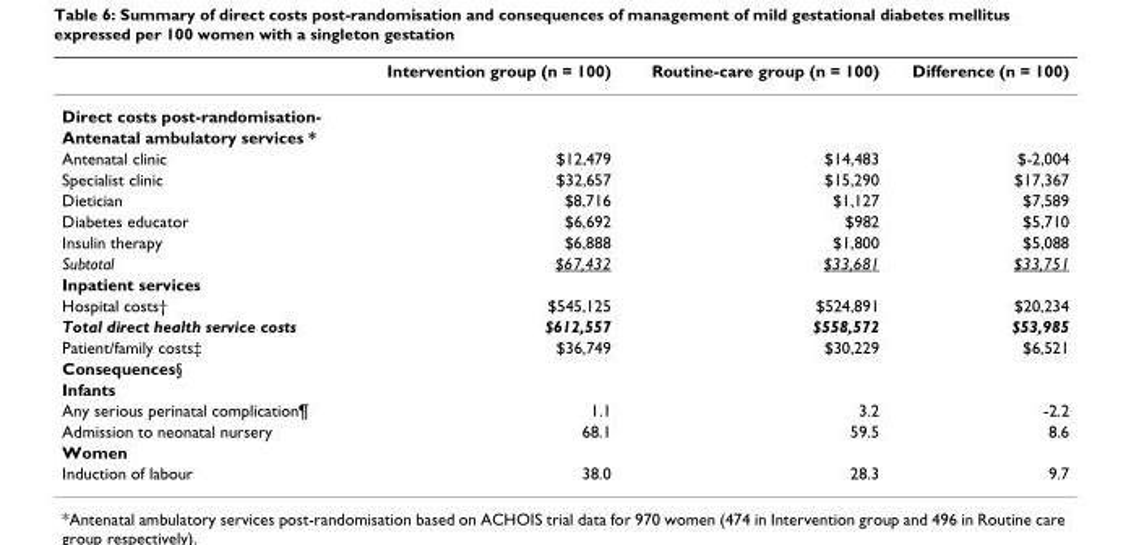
<table><thead><tr><td></td><td>Intervention group (n = 100)</td><td>Routine-care group (n = 100)</td><td>Difference (n = 100)</td></tr></thead><tbody><tr><td colspan="4">Direct costs post-randomisation-</td></tr><tr><td colspan="4">Antenatal ambulatory services *</td></tr><tr><td>Antenatal clinic</td><td>$12,479</td><td>$14,483</td><td>$-2,004</td></tr><tr><td>Specialist clinic</td><td>$32,657</td><td>$15,290</td><td>$17,367</td></tr><tr><td>Dietician</td><td>$8,716</td><td>$1,127</td><td>$7,589</td></tr><tr><td>Diabetes educator</td><td>$6,692</td><td>$982</td><td>$5,710</td></tr><tr><td>Insulin therapy</td><td>$6,888</td><td>$1,800</td><td>$5,088</td></tr><tr><td>Subtotal</td><td>$67,432</td><td>$33,681</td><td>$33,751</td></tr><tr><td colspan="4">Inpatient services</td></tr><tr><td>Hospital costs†</td><td>$545,125</td><td>$524,891</td><td>$20,234</td></tr><tr><td>Total direct health service costs</td><td>$612,557</td><td>$558,572</td><td>$53,985</td></tr><tr><td>Patient/family costs‡</td><td>$36,749</td><td>$30,229</td><td>$6,521</td></tr><tr><td colspan="4">Consequences§</td></tr><tr><td colspan="4">Infants</td></tr><tr><td>Any serious perinatal complication¶</td><td>1.1</td><td>3.2</td><td>-2.2</td></tr><tr><td>Admission to neonatal nursery</td><td>68.1</td><td>59.5</td><td>8.6</td></tr><tr><td colspan="4">Women</td></tr><tr><td>Induction of labour</td><td>38.0</td><td>28.3</td><td>9.7</td></tr></tbody></table>